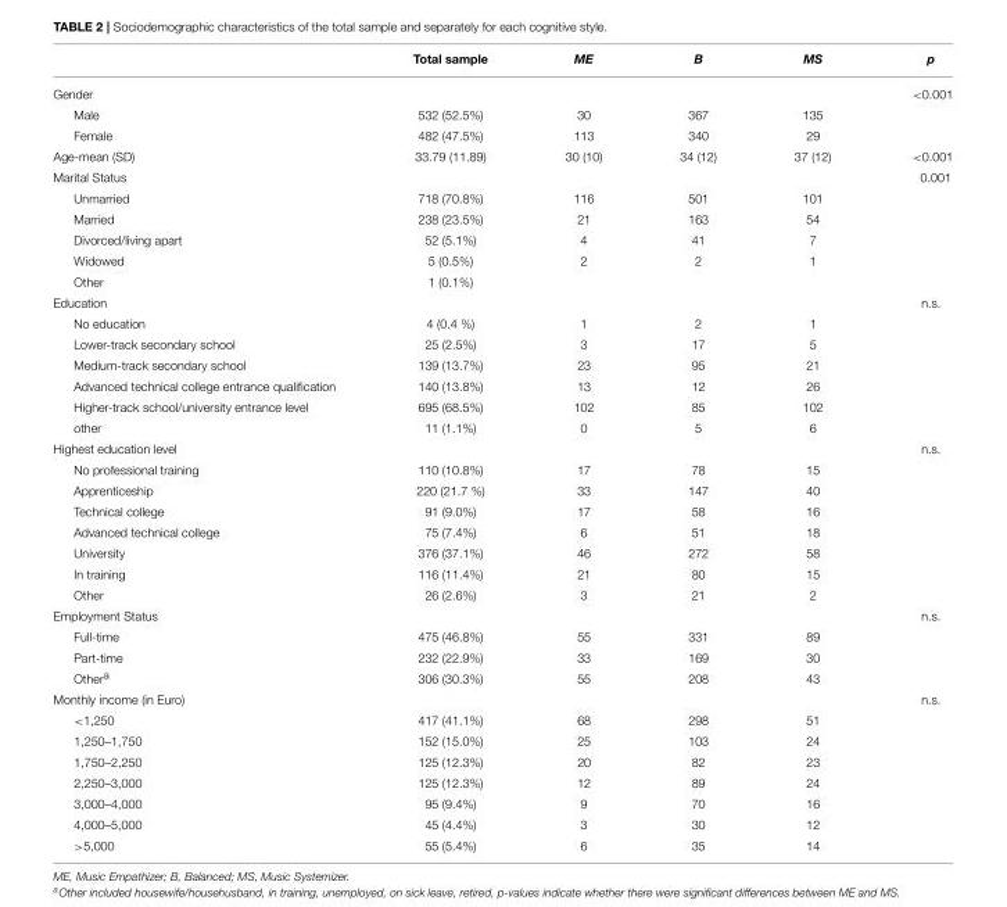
<table><thead><tr><td></td><td>Total sample</td><td>ME</td><td>B</td><td>MS</td><td>p</td></tr></thead><tbody><tr><td>Gender</td><td></td><td></td><td></td><td></td><td>&lt;0.001</td></tr><tr><td>Male</td><td>532 (52.5%)</td><td>30</td><td>367</td><td>135</td><td></td></tr><tr><td>Female</td><td>482 (47.5%)</td><td>113</td><td>340</td><td>29</td><td></td></tr><tr><td>Age-mean (SD)</td><td>33.79 (11.89)</td><td>30 (10)</td><td>34 (12)</td><td>37 (12)</td><td>&lt;0.001</td></tr><tr><td>Marital Status</td><td></td><td></td><td></td><td></td><td>0.001</td></tr><tr><td>Unmarried</td><td>718 (70.8%)</td><td>116</td><td>501</td><td>101</td><td></td></tr><tr><td>Married</td><td>238 (23.5%)</td><td>21</td><td>163</td><td>54</td><td></td></tr><tr><td>Divorced/living apart</td><td>52 (5.1%)</td><td>4</td><td>41</td><td>7</td><td></td></tr><tr><td>Widowed</td><td>5 (0.5%)</td><td>2</td><td>2</td><td>1</td><td></td></tr><tr><td>Other</td><td>1 (0.1%)</td><td></td><td></td><td></td><td></td></tr><tr><td>Education</td><td></td><td></td><td></td><td></td><td>n.s.</td></tr><tr><td>No education</td><td>4 (0.4 %)</td><td>1</td><td>2</td><td>1</td><td></td></tr><tr><td>Lower-track secondary school</td><td>25 (2.5%)</td><td>3</td><td>17</td><td>5</td><td></td></tr><tr><td>Medium-track secondary school</td><td>139 (13.7%)</td><td>23</td><td>95</td><td>21</td><td></td></tr><tr><td>Advanced technical college entrance qualification</td><td>140 (13.8%)</td><td>13</td><td>12</td><td>26</td><td></td></tr><tr><td>Higher-track school/university entrance level</td><td>695 (68.5%)</td><td>102</td><td>85</td><td>102</td><td></td></tr><tr><td>other</td><td>11 (1.1%)</td><td>0</td><td>5</td><td>6</td><td></td></tr><tr><td>Highest education level</td><td></td><td></td><td></td><td></td><td>n.s.</td></tr><tr><td>No professional training</td><td>110 (10.8%)</td><td>17</td><td>78</td><td>15</td><td></td></tr><tr><td>Apprenticeship</td><td>220 (21.7 %)</td><td>33</td><td>147</td><td>40</td><td></td></tr><tr><td>Technical college</td><td>91 (9.0%)</td><td>17</td><td>58</td><td>16</td><td></td></tr><tr><td>Advanced technical college</td><td>75 (7.4%)</td><td>6</td><td>51</td><td>18</td><td></td></tr><tr><td>University</td><td>376 (37.1%)</td><td>46</td><td>272</td><td>58</td><td></td></tr><tr><td>In training</td><td>116 (11.4%)</td><td>21</td><td>80</td><td>15</td><td></td></tr><tr><td>Other</td><td>26 (2.6%)</td><td>3</td><td>21</td><td>2</td><td></td></tr><tr><td>Employment Status</td><td></td><td></td><td></td><td></td><td>n.s.</td></tr><tr><td>Full-time</td><td>475 (46.8%)</td><td>55</td><td>331</td><td>89</td><td></td></tr><tr><td>Part-time</td><td>232 (22.9%)</td><td>33</td><td>169</td><td>30</td><td></td></tr><tr><td>Other<sup>a</sup></td><td>306 (30.3%)</td><td>55</td><td>208</td><td>43</td><td></td></tr><tr><td>Monthly income (in Euro)</td><td></td><td></td><td></td><td></td><td>n.s.</td></tr><tr><td>&lt;1,250</td><td>417 (41.1%)</td><td>68</td><td>298</td><td>51</td><td></td></tr><tr><td>1,250–1,750</td><td>152 (15.0%)</td><td>25</td><td>103</td><td>24</td><td></td></tr><tr><td>1,750–2,250</td><td>125 (12.3%)</td><td>20</td><td>82</td><td>23</td><td></td></tr><tr><td>2,250–3,000</td><td>125 (12.3%)</td><td>12</td><td>89</td><td>24</td><td></td></tr><tr><td>3,000–4,000</td><td>95 (9.4%)</td><td>9</td><td>70</td><td>16</td><td></td></tr><tr><td>4,000–5,000</td><td>45 (4.4%)</td><td>3</td><td>30</td><td>12</td><td></td></tr><tr><td>&gt;5,000</td><td>55 (5.4%)</td><td>6</td><td>35</td><td>14</td><td></td></tr></tbody></table>